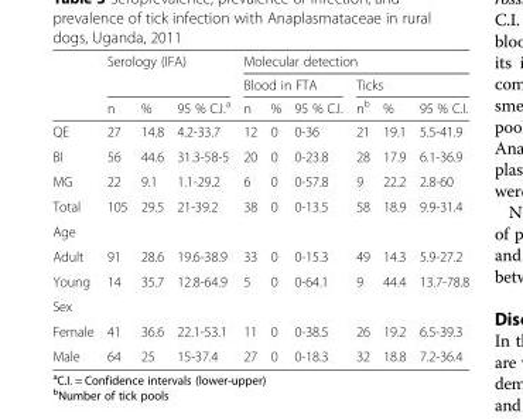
<table><thead><tr><td rowspan="3"></td><td rowspan="2" colspan="3">Serology (IFA)</td><td colspan="6">Molecular detection</td></tr><tr><td colspan="3">Blood in FTA</td><td colspan="3">Ticks</td></tr><tr><td>n</td><td>%</td><td>95 % C.I.<sup>a</sup></td><td>n</td><td>%</td><td>95 % C.I.</td><td>n<sup>b</sup></td><td>%</td><td>95 % C.I.</td></tr></thead><tbody><tr><td>QE</td><td>27</td><td>14.8</td><td>4.2-33.7</td><td>12</td><td>0</td><td>0-36</td><td>21</td><td>19.1</td><td>5.5-41.9</td></tr><tr><td>BI</td><td>56</td><td>44.6</td><td>31.3-58-5</td><td>20</td><td>0</td><td>0-23.8</td><td>28</td><td>17.9</td><td>6.1-36.9</td></tr><tr><td>MG</td><td>22</td><td>9.1</td><td>1.1-29.2</td><td>6</td><td>0</td><td>0-57.8</td><td>9</td><td>22.2</td><td>2.8-60</td></tr><tr><td>Total</td><td>105</td><td>29.5</td><td>21-39.2</td><td>38</td><td>0</td><td>0-13.5</td><td>58</td><td>18.9</td><td>9.9-31.4</td></tr><tr><td colspan="10">Age</td></tr><tr><td>Adult</td><td>91</td><td>28.6</td><td>19.6-38.9</td><td>33</td><td>0</td><td>0-15.3</td><td>49</td><td>14.3</td><td>5.9-27.2</td></tr><tr><td>Young</td><td>14</td><td>35.7</td><td>12.8-64.9</td><td>5</td><td>0</td><td>0-64.1</td><td>9</td><td>44.4</td><td>13.7-78.8</td></tr><tr><td colspan="10">Sex</td></tr><tr><td>Female</td><td>41</td><td>36.6</td><td>22.1-53.1</td><td>11</td><td>0</td><td>0-38.5</td><td>26</td><td>19.2</td><td>6.5-39.3</td></tr><tr><td>Male</td><td>64</td><td>25</td><td>15-37.4</td><td>27</td><td>0</td><td>0-18.3</td><td>32</td><td>18.8</td><td>7.2-36.4</td></tr></tbody></table>